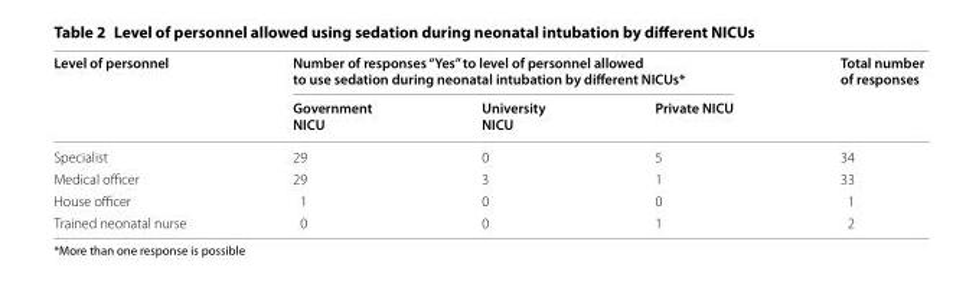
<table><thead><tr><td rowspan="2">Level of personnel</td><td colspan="3">Number of responses “Yes” to level of personnel allowed to use sedation during neonatal intubation by different NICUs*</td><td rowspan="2">Total number of responses</td></tr><tr><td>Government NICU</td><td>University NICU</td><td>Private NICU</td></tr></thead><tbody><tr><td>Specialist</td><td>29</td><td>0</td><td>5</td><td>34</td></tr><tr><td>Medical officer</td><td>29</td><td>3</td><td>1</td><td>33</td></tr><tr><td>House officer</td><td>1</td><td>0</td><td>0</td><td>1</td></tr><tr><td>Trained neonatal nurse</td><td>0</td><td>0</td><td>1</td><td>2</td></tr></tbody></table>